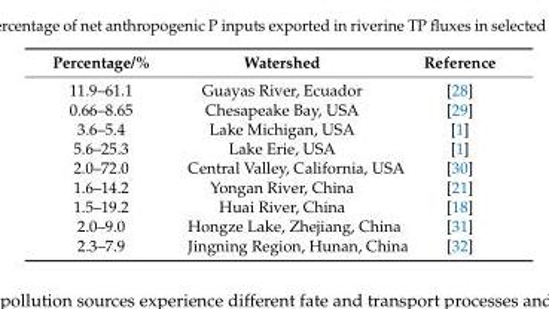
<table><thead><tr><td>Percentage/%</td><td>Watershed</td><td>Reference</td></tr></thead><tbody><tr><td>11.9–61.1</td><td>Guayas River, Ecuador</td><td>[28]</td></tr><tr><td>0.66–8.65</td><td>Chesapeake Bay, USA</td><td>[29]</td></tr><tr><td>3.6–5.4</td><td>Lake Michigan, USA</td><td>[1]</td></tr><tr><td>5.6–25.3</td><td>Lake Erie, USA</td><td>[1]</td></tr><tr><td>2.0–72.0</td><td>Central Valley, California, USA</td><td>[30]</td></tr><tr><td>1.6–14.2</td><td>Yongan River, China</td><td>[21]</td></tr><tr><td>1.5–19.2</td><td>Huai River, China</td><td>[18]</td></tr><tr><td>2.0–9.0</td><td>Hongze Lake, Zhejiang, China</td><td>[31]</td></tr><tr><td>2.3–7.9</td><td>Jingning Region, Hunan, China</td><td>[32]</td></tr></tbody></table>